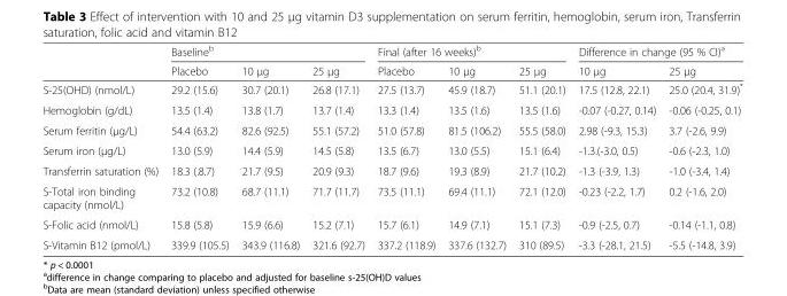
<table><thead><tr><td rowspan="2"></td><td colspan="3">Baseline<sup>b</sup></td><td colspan="3">Final (after 16 weeks)<sup>b</sup></td><td colspan="2">Difference in change (95 % CI)<sup>a</sup></td></tr><tr><td>Placebo</td><td>10 μg</td><td>25 μg</td><td>Placebo</td><td>10 μg</td><td>25 μg</td><td>10 μg</td><td>25 μg</td></tr></thead><tbody><tr><td>S-25(OHD) (nmol/L)</td><td>29.2 (15.6)</td><td>30.7 (20.1)</td><td>26.8 (17.1)</td><td>27.5 (13.7)</td><td>45.9 (18.7)</td><td>51.1 (20.1)</td><td>17.5 (12.8, 22.1)</td><td>25.0 (20.4, 31.9)*</td></tr><tr><td>Hemoglobin (g/dL)</td><td>13.5 (1.4)</td><td>13.8 (1.7)</td><td>13.7 (1.4)</td><td>13.3 (1.4)</td><td>13.5 (1.6)</td><td>13.5 (1.6)</td><td>-0.07 (-0.27, 0.14)</td><td>-0.06 (-0.25, 0.1)</td></tr><tr><td>Serum ferritin (μg/L)</td><td>54.4 (63.2)</td><td>82.6 (92.5)</td><td>55.1 (57.2)</td><td>51.0 (57.8)</td><td>81.5 (106.2)</td><td>55.5 (58.0)</td><td>2.98 (-9.3, 15.3)</td><td>3.7 (-2.6, 9.9)</td></tr><tr><td>Serum iron (μg/L)</td><td>13.0 (5.9)</td><td>14.4 (5.9)</td><td>14.5 (5.8)</td><td>13.5 (6.7)</td><td>13.0 (5.5)</td><td>15.1 (6.4)</td><td>-1.3.(-3.0, 0.5)</td><td>-0.6 (-2.3, 1.0)</td></tr><tr><td>Transferrin saturation (%)</td><td>18.3 (.8.7)</td><td>21.7 (9.5)</td><td>20.9 (9.3)</td><td>18.7 (9.6)</td><td>19.3 (8.9)</td><td>21.7 (10.2)</td><td>-1.3 (-3.9, 1.3)</td><td>-1.0 (-3.4, 1.4)</td></tr><tr><td>S-Total iron binding capacity (nmol/L)</td><td>73.2 (10.8)</td><td>68.7 (11.1)</td><td>71.7 (11.7)</td><td>73.5 (11.1)</td><td>69.4 (11.1)</td><td>72.1 (12.0)</td><td>-0.23 (-2.2, 1.7)</td><td>0.2 (-1.6, 2.0)</td></tr><tr><td>S-Folic acid (nmol/L)</td><td>15.8 (5.8)</td><td>15.9 (6.6)</td><td>15.2 (7.1)</td><td>15.7 (6.1)</td><td>14.9 (7.1)</td><td>15.1 (7.3)</td><td>-0.9 (-2.5, 0.7)</td><td>-0.14 (-1.1, 0.8)</td></tr><tr><td>S-Vitamin B12 (pmol/L)</td><td>339.9 (105.5)</td><td>343.9 (116.8)</td><td>321.6 (92.7)</td><td>337.2 (118.9)</td><td>337.6 (132.7)</td><td>310 (89.5)</td><td>-3.3 (-28.1, 21.5)</td><td>-5.5 (-14.8, 3.9)</td></tr></tbody></table>